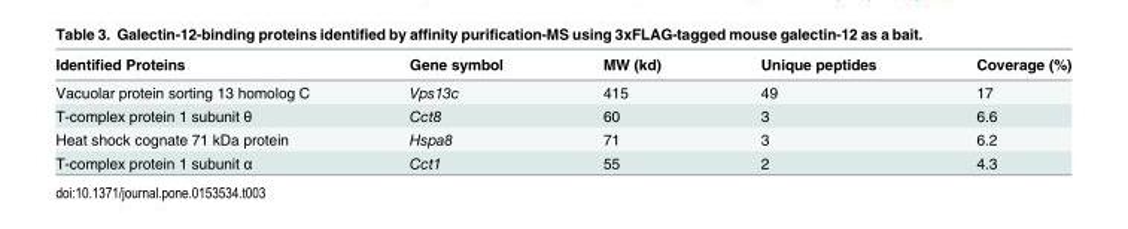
<table><thead><tr><td>Identified Proteins</td><td>Gene symbol</td><td>MW (kd)</td><td>Unique peptides</td><td>Coverage (%)</td></tr></thead><tbody><tr><td>Vacuolar protein sorting 13 homolog C</td><td>Vps13c</td><td>415</td><td>49</td><td>17</td></tr><tr><td>T-complex protein 1 subunit θ</td><td>Cct8</td><td>60</td><td>3</td><td>6.6</td></tr><tr><td>Heat shock cognate 71 kDa protein</td><td>Hspa8</td><td>71</td><td>3</td><td>6.2</td></tr><tr><td>T-complex protein 1 subunit α</td><td>Cct1</td><td>55</td><td>2</td><td>4.3</td></tr></tbody></table>